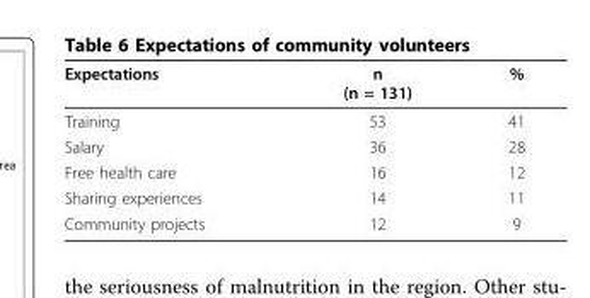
<table><thead><tr><td>Expectations</td><td>n (n = 131)</td><td>%</td></tr></thead><tbody><tr><td>Training</td><td>53</td><td>41</td></tr><tr><td>Salary</td><td>36</td><td>28</td></tr><tr><td>Free health care</td><td>16</td><td>12</td></tr><tr><td>Sharing experiences</td><td>14</td><td>11</td></tr><tr><td>Community projects</td><td>12</td><td>9</td></tr></tbody></table>